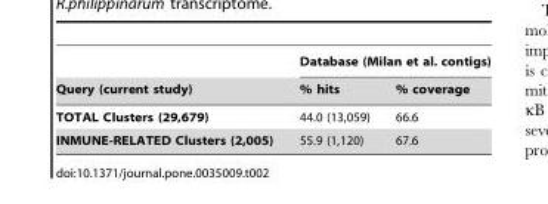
<table><thead><tr><td rowspan="2">Query (current study)</td><td colspan="2">Database (Milan et al. contigs)</td></tr><tr><td>% hits</td><td>% coverage</td></tr></thead><tbody><tr><td>TOTAL Clusters (29,679)</td><td>44.0 (13,059)</td><td>66.6</td></tr><tr><td>INMUNE-RELATED Clusters (2,005)</td><td>55.9 (1,120)</td><td>67.6</td></tr></tbody></table>